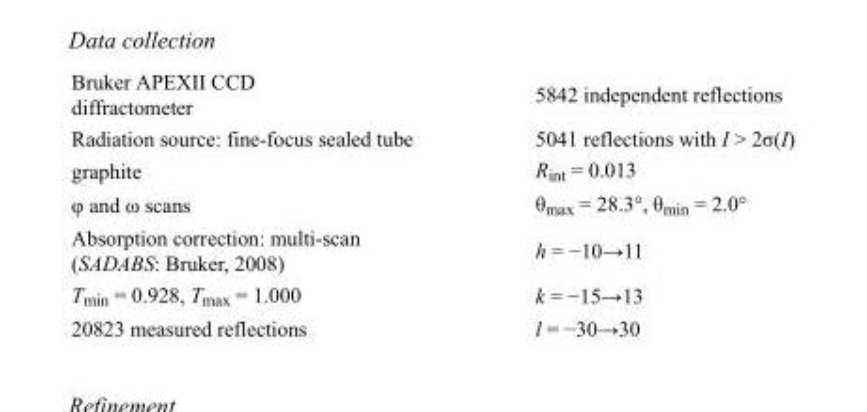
<table><tbody><tr><td>Bruker APEXII CCD diffractometer</td><td>5842 independent reflections</td></tr><tr><td>Radiation source: fine-focus sealed tube</td><td>5041 reflections with I &gt; 2σ(I)</td></tr><tr><td>graphite</td><td>R<sub>int</sub> = 0.013</td></tr><tr><td>φ and ω scans</td><td>θ<sub>max</sub> = 28.3°, θ<sub>min</sub> = 2.0°</td></tr><tr><td>Absorption correction: multi-scan (SADABS: Bruker, 2008)</td><td>h = −10→11</td></tr><tr><td>T<sub>min</sub> = 0.928, T<sub>max</sub> = 1.000</td><td>k = −15→13</td></tr><tr><td>20823 measured reflections</td><td>l = −30→30</td></tr></tbody></table>